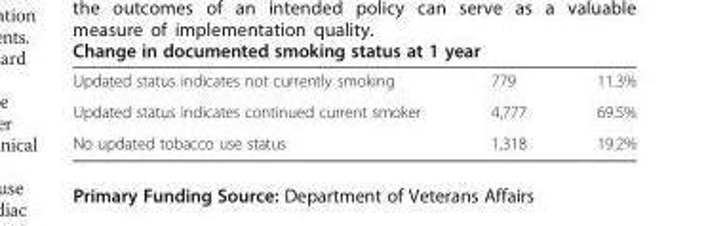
<table><tbody><tr><td>Updated status indicates not currently smoking</td><td>779</td><td>11.3%</td></tr><tr><td>Updated status indicates continued current smoker</td><td>4,777</td><td>69.5%</td></tr><tr><td>No updated tobacco use status</td><td>1,318</td><td>19.2%</td></tr></tbody></table>